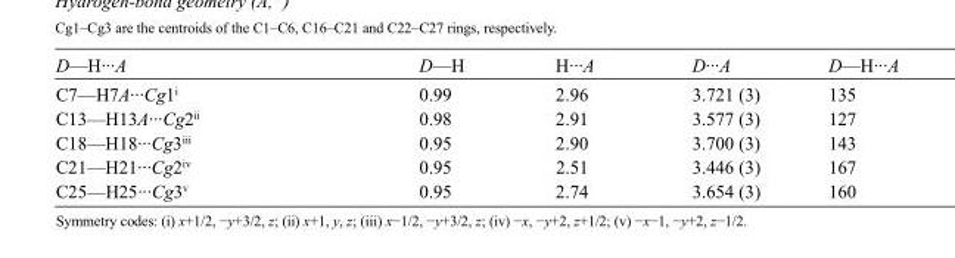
<table><tbody><tr><td>D—H···A</td><td>D—H</td><td>H···A</td><td>D···A</td><td>D—H···A</td></tr><tr><td>C7—H7A···Cg1<sup>i</sup></td><td>0.99</td><td>2.96</td><td>3.721 (3)</td><td>135</td></tr><tr><td>C13—H13A···Cg2<sup>ii</sup></td><td>0.98</td><td>2.91</td><td>3.577 (3)</td><td>127</td></tr><tr><td>C18—H18···Cg3<sup>iii</sup></td><td>0.95</td><td>2.90</td><td>3.700 (3)</td><td>143</td></tr><tr><td>C21—H21···Cg2<sup>iv</sup></td><td>0.95</td><td>2.51</td><td>3.446 (3)</td><td>167</td></tr><tr><td>C25—H25···Cg3<sup>v</sup></td><td>0.95</td><td>2.74</td><td>3.654 (3)</td><td>160</td></tr></tbody></table>